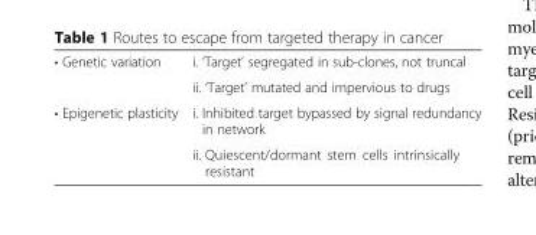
<table><tbody><tr><td rowspan="2">• Genetic variation</td><td>i. ‘Target’ segregated in sub-clones, not truncal</td></tr><tr><td>ii. ‘Target’ mutated and impervious to drugs</td></tr><tr><td rowspan="2">• Epigenetic plasticity</td><td>i. Inhibited target bypassed by signal redundancy in network</td></tr><tr><td>ii. Quiescent/dormant stem cells intrinsically resistant</td></tr></tbody></table>